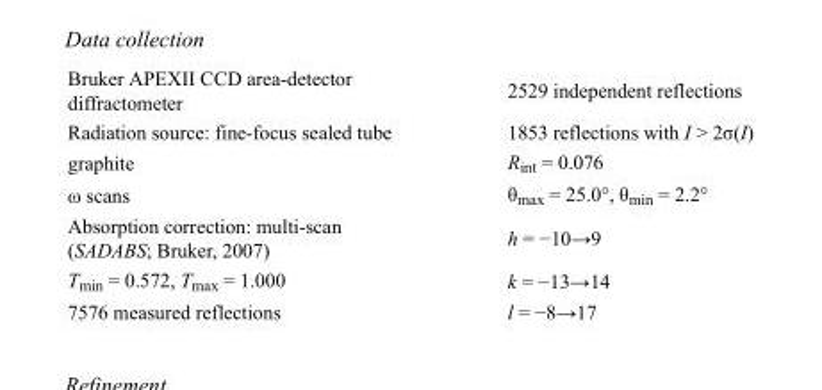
<table><tbody><tr><td>Bruker APEXII CCD area-detector diffractometer</td><td>2529 independent reflections</td></tr><tr><td>Radiation source: fine-focus sealed tube</td><td>1853 reflections with I &gt; 2σ(I)</td></tr><tr><td>graphite</td><td>R<sub>int</sub> = 0.076</td></tr><tr><td>ω scans</td><td>θ<sub>max</sub> = 25.0°, θ<sub>min</sub> = 2.2°</td></tr><tr><td>Absorption correction: multi-scan (SADABS; Bruker, 2007)</td><td>h = −10→9</td></tr><tr><td>T<sub>min</sub> = 0.572, T<sub>max</sub> = 1.000</td><td>k = −13→14</td></tr><tr><td>7576 measured reflections</td><td>l = −8→17</td></tr></tbody></table>